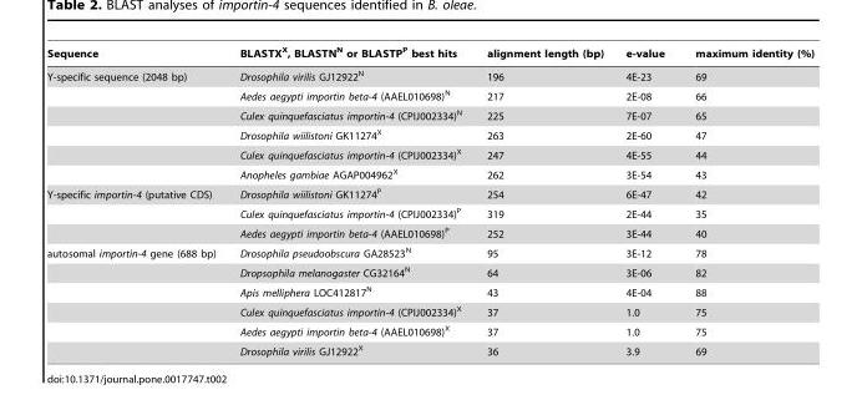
<table><thead><tr><td>Sequence</td><td>BLASTX<sup>X</sup>, BLASTN<sup>N</sup> or BLASTP<sup>P</sup> best hits</td><td>alignment length (bp)</td><td>e-value</td><td>maximum identity (%)</td></tr></thead><tbody><tr><td rowspan="6">Y-specific sequence (2048 bp)</td><td>Drosophila virilis GJ12922<sup>N</sup></td><td>196</td><td>4E-23</td><td>69</td></tr><tr><td>Aedes aegypti importin beta-4 (AAEL010698)<sup>N</sup></td><td>217</td><td>2E-08</td><td>66</td></tr><tr><td>Culex quinquefasciatus importin-4 (CPIJ002334)<sup>N</sup></td><td>225</td><td>7E-07</td><td>65</td></tr><tr><td>Drosophila wiilistoni GK11274<sup>X</sup></td><td>263</td><td>2E-60</td><td>47</td></tr><tr><td>Culex quinquefasciatus importin-4 (CPIJ002334)<sup>X</sup></td><td>247</td><td>4E-55</td><td>44</td></tr><tr><td>Anopheles gambiae AGAP004962<sup>X</sup></td><td>262</td><td>3E-54</td><td>43</td></tr><tr><td rowspan="3">Y-specific importin-4 (putative CDS)</td><td>Drosophila wiilistoni GK11274<sup>P</sup></td><td>254</td><td>6E-47</td><td>42</td></tr><tr><td>Culex quinquefasciatus importin-4 (CPIJ002334)<sup>P</sup></td><td>319</td><td>2E-44</td><td>35</td></tr><tr><td>Aedes aegypti importin beta-4 (AAEL010698)<sup>P</sup></td><td>252</td><td>3E-44</td><td>40</td></tr><tr><td rowspan="6">autosomal importin-4 gene (688 bp)</td><td>Drosophila pseudoobscura GA28523<sup>N</sup></td><td>95</td><td>3E-12</td><td>78</td></tr><tr><td>Dropsophila melanogaster CG32164<sup>N</sup></td><td>64</td><td>3E-06</td><td>82</td></tr><tr><td>Apis melliphera LOC412817<sup>N</sup></td><td>43</td><td>4E-04</td><td>88</td></tr><tr><td>Culex quinquefasciatus importin-4 (CPIJ002334)<sup>X</sup></td><td>37</td><td>1.0</td><td>75</td></tr><tr><td>Aedes aegypti importin beta-4 (AAEL010698)<sup>X</sup></td><td>37</td><td>1.0</td><td>75</td></tr><tr><td>Drosophila virilis GJ12922<sup>X</sup></td><td>36</td><td>3.9</td><td>69</td></tr></tbody></table>